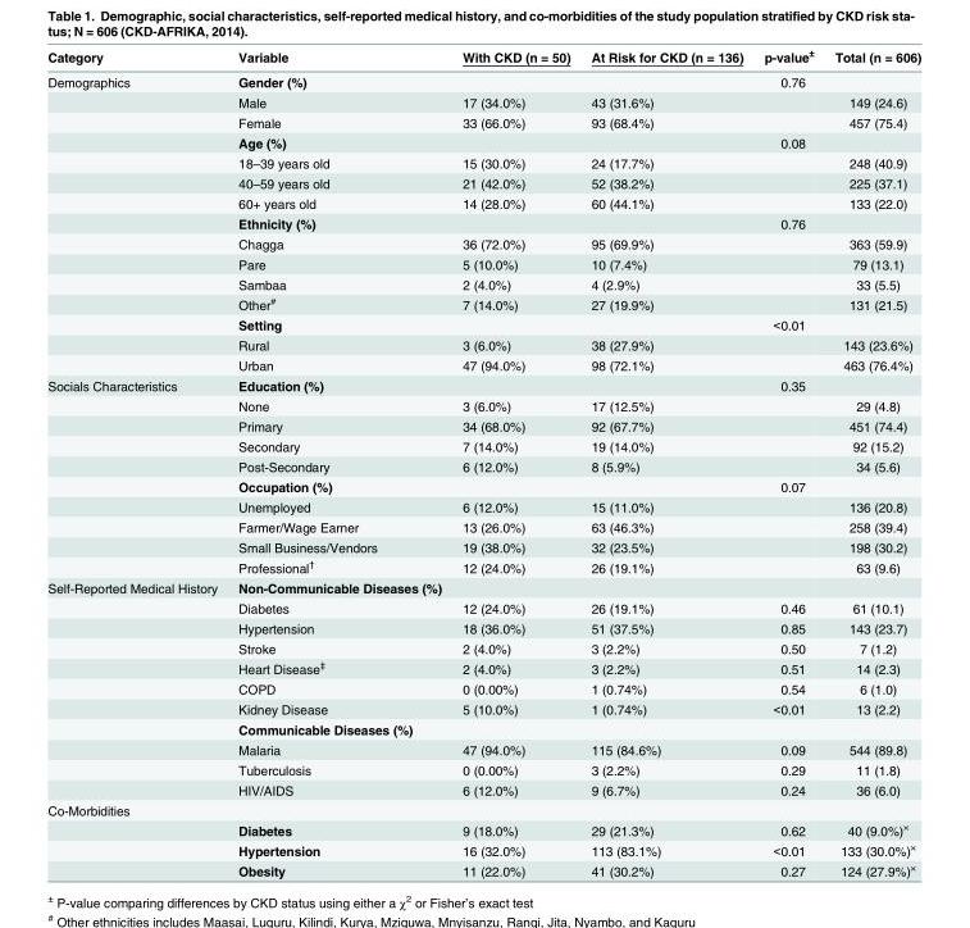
<table><thead><tr><td>Category</td><td>Variable</td><td>With CKD (n = 50)</td><td>At Risk for CKD (n = 136)</td><td>p-value<sup>±</sup></td><td>Total (n = 606)</td></tr></thead><tbody><tr><td rowspan="15">Demographics</td><td>Gender (%)</td><td></td><td></td><td>0.76</td><td></td></tr><tr><td>Male</td><td>17 (34.0%)</td><td>43 (31.6%)</td><td></td><td>149 (24.6)</td></tr><tr><td>Female</td><td>33 (66.0%)</td><td>93 (68.4%)</td><td></td><td>457 (75.4)</td></tr><tr><td>Age (%)</td><td></td><td></td><td>0.08</td><td></td></tr><tr><td>18–39 years old</td><td>15 (30.0%)</td><td>24 (17.7%)</td><td></td><td>248 (40.9)</td></tr><tr><td>40–59 years old</td><td>21 (42.0%)</td><td>52 (38.2%)</td><td></td><td>225 (37.1)</td></tr><tr><td>60+ years old</td><td>14 (28.0%)</td><td>60 (44.1%)</td><td></td><td>133 (22.0)</td></tr><tr><td>Ethnicity (%)</td><td></td><td></td><td>0.76</td><td></td></tr><tr><td>Chagga</td><td>36 (72.0%)</td><td>95 (69.9%)</td><td></td><td>363 (59.9)</td></tr><tr><td>Pare</td><td>5 (10.0%)</td><td>10 (7.4%)</td><td></td><td>79 (13.1)</td></tr><tr><td>Sambaa</td><td>2 (4.0%)</td><td>4 (2.9%)</td><td></td><td>33 (5.5)</td></tr><tr><td>Other<sup>#</sup></td><td>7 (14.0%)</td><td>27 (19.9%)</td><td></td><td>131 (21.5)</td></tr><tr><td>Setting</td><td></td><td></td><td>&lt;0.01</td><td></td></tr><tr><td>Rural</td><td>3 (6.0%)</td><td>38 (27.9%)</td><td></td><td>143 (23.6%)</td></tr><tr><td>Urban</td><td>47 (94.0%)</td><td>98 (72.1%)</td><td></td><td>463 (76.4%)</td></tr><tr><td rowspan="10">Socials Characteristics</td><td>Education (%)</td><td></td><td></td><td>0.35</td><td></td></tr><tr><td>None</td><td>3 (6.0%)</td><td>17 (12.5%)</td><td></td><td>29 (4.8)</td></tr><tr><td>Primary</td><td>34 (68.0%)</td><td>92 (67.7%)</td><td></td><td>451 (74.4)</td></tr><tr><td>Secondary</td><td>7 (14.0%)</td><td>19 (14.0%)</td><td></td><td>92 (15.2)</td></tr><tr><td>Post-Secondary</td><td>6 (12.0%)</td><td>8 (5.9%)</td><td></td><td>34 (5.6)</td></tr><tr><td>Occupation (%)</td><td></td><td></td><td>0.07</td><td></td></tr><tr><td>Unemployed</td><td>6 (12.0%)</td><td>15 (11.0%)</td><td></td><td>136 (20.8)</td></tr><tr><td>Farmer/Wage Earner</td><td>13 (26.0%)</td><td>63 (46.3%)</td><td></td><td>258 (39.4)</td></tr><tr><td>Small Business/Vendors</td><td>19 (38.0%)</td><td>32 (23.5%)</td><td></td><td>198 (30.2)</td></tr><tr><td>Professional<sup>†</sup></td><td>12 (24.0%)</td><td>26 (19.1%)</td><td></td><td>63 (9.6)</td></tr><tr><td rowspan="11">Self-Reported Medical History</td><td>Non-Communicable Diseases (%)</td><td></td><td></td><td></td><td></td></tr><tr><td>Diabetes</td><td>12 (24.0%)</td><td>26 (19.1%)</td><td>0.46</td><td>61 (10.1)</td></tr><tr><td>Hypertension</td><td>18 (36.0%)</td><td>51 (37.5%)</td><td>0.85</td><td>143 (23.7)</td></tr><tr><td>Stroke</td><td>2 (4.0%)</td><td>3 (2.2%)</td><td>0.50</td><td>7 (1.2)</td></tr><tr><td>Heart Disease<sup>‡</sup></td><td>2 (4.0%)</td><td>3 (2.2%)</td><td>0.51</td><td>14 (2.3)</td></tr><tr><td>COPD</td><td>0 (0.00%)</td><td>1 (0.74%)</td><td>0.54</td><td>6 (1.0)</td></tr><tr><td>Kidney Disease</td><td>5 (10.0%)</td><td>1 (0.74%)</td><td>&lt;0.01</td><td>13 (2.2)</td></tr><tr><td>Communicable Diseases (%)</td><td></td><td></td><td></td><td></td></tr><tr><td>Malaria</td><td>47 (94.0%)</td><td>115 (84.6%)</td><td>0.09</td><td>544 (89.8)</td></tr><tr><td>Tuberculosis</td><td>0 (0.00%)</td><td>3 (2.2%)</td><td>0.29</td><td>11 (1.8)</td></tr><tr><td>HIV/AIDS</td><td>6 (12.0%)</td><td>9 (6.7%)</td><td>0.24</td><td>36 (6.0)</td></tr><tr><td colspan="6">Co-Morbidities</td></tr><tr><td></td><td>Diabetes</td><td>9 (18.0%)</td><td>29 (21.3%)</td><td>0.62</td><td>40 (9.0%)<sup>×</sup></td></tr><tr><td></td><td>Hypertension</td><td>16 (32.0%)</td><td>113 (83.1%)</td><td>&lt;0.01</td><td>133 (30.0%)<sup>×</sup></td></tr><tr><td></td><td>Obesity</td><td>11 (22.0%)</td><td>41 (30.2%)</td><td>0.27</td><td>124 (27.9%)<sup>×</sup></td></tr></tbody></table>